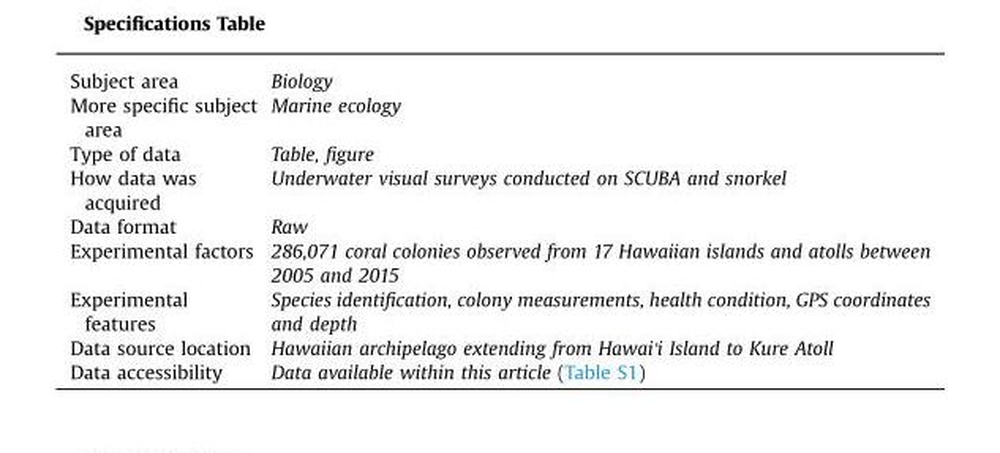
<table><tbody><tr><td>Subject area</td><td>Biology</td></tr><tr><td>More specific subject area</td><td>Marine ecology</td></tr><tr><td>Type of data</td><td>Table, figure</td></tr><tr><td>How data was acquired</td><td>Underwater visual surveys conducted on SCUBA and snorkel</td></tr><tr><td>Data format</td><td>Raw</td></tr><tr><td>Experimental factors</td><td>286,071 coral colonies observed from 17 Hawaiian islands and atolls between 2005 and 2015</td></tr><tr><td>Experimental features</td><td>Species identification, colony measurements, health condition, GPS coordinates and depth</td></tr><tr><td>Data source location</td><td>Hawaiian archipelago extending from Hawai&#x27;i Island to Kure Atoll</td></tr><tr><td>Data accessibility</td><td>Data available within this article (Table S1)</td></tr></tbody></table>